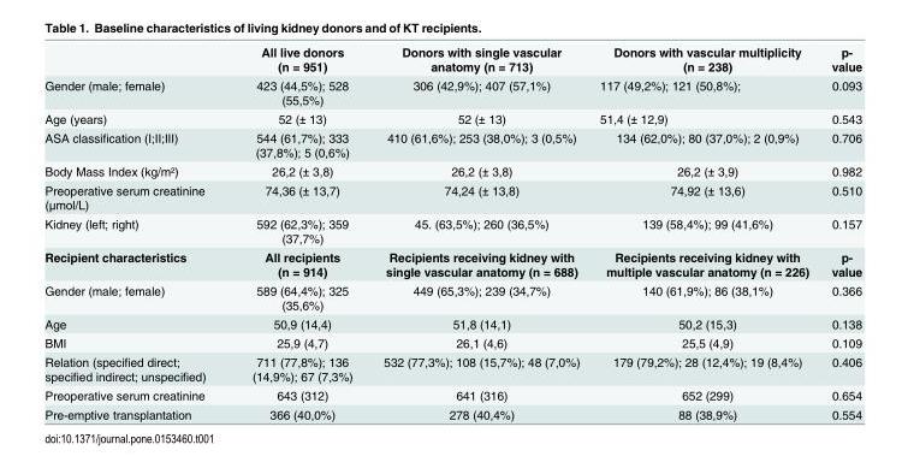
<table><thead><tr><td></td><td>All live donors (n = 951)</td><td>Donors with single vascular anatomy (n = 713)</td><td>Donors with vascular multiplicity (n = 238)</td><td>p- value</td></tr></thead><tbody><tr><td>Gender (male; female)</td><td>423 (44,5%); 528 (55,5%)</td><td>306 (42,9%); 407 (57,1%)</td><td>117 (49,2%); 121 (50,8%);</td><td>0.093</td></tr><tr><td>Age (years)</td><td>52 (± 13)</td><td>52 (± 13)</td><td>51,4 (± 12,9)</td><td>0.543</td></tr><tr><td>ASA classification (I;II;III)</td><td>544 (61,7%); 333 (37,8%); 5 (0,6%)</td><td>410 (61,6%); 253 (38,0%); 3 (0,5%)</td><td>134 (62,0%); 80 (37,0%); 2 (0,9%)</td><td>0.706</td></tr><tr><td>Body Mass Index (kg/m²)</td><td>26,2 (± 3,8)</td><td>26,2 (± 3,8)</td><td>26,2 (± 3,9)</td><td>0.982</td></tr><tr><td>Preoperative serum creatinine (μmol/L)</td><td>74,36 (± 13,7)</td><td>74,24 (± 13,8)</td><td>74,92 (± 13,6)</td><td>0.510</td></tr><tr><td>Kidney (left; right)</td><td>592 (62,3%); 359 (37,7%)</td><td>45. (63,5%); 260 (36,5%)</td><td>139 (58,4%); 99 (41,6%)</td><td>0.157</td></tr><tr><td>Recipient characteristics</td><td>All recipients (n = 914)</td><td>Recipients receiving kidney with single vascular anatomy (n = 688)</td><td>Recipients receiving kidney with multiple vascular anatomy (n = 226)</td><td>p- value</td></tr><tr><td>Gender (male; female)</td><td>589 (64,4%); 325 (35,6%)</td><td>449 (65,3%); 239 (34,7%)</td><td>140 (61,9%); 86 (38,1%)</td><td>0.366</td></tr><tr><td>Age</td><td>50,9 (14,4)</td><td>51,8 (14,1)</td><td>50,2 (15,3)</td><td>0.138</td></tr><tr><td>BMI</td><td>25,9 (4,7)</td><td>26,1 (4,6)</td><td>25,5 (4,9)</td><td>0.109</td></tr><tr><td>Relation (specified direct; specified indirect; unspecified)</td><td>711 (77,8%); 136 (14,9%); 67 (7,3%)</td><td>532 (77,3%); 108 (15,7%); 48 (7,0%)</td><td>179 (79,2%); 28 (12,4%); 19 (8,4%)</td><td>0.406</td></tr><tr><td>Preoperative serum creatinine</td><td>643 (312)</td><td>641 (316)</td><td>652 (299)</td><td>0.654</td></tr><tr><td>Pre-emptive transplantation</td><td>366 (40,0%)</td><td>278 (40,4%)</td><td>88 (38,9%)</td><td>0.554</td></tr></tbody></table>